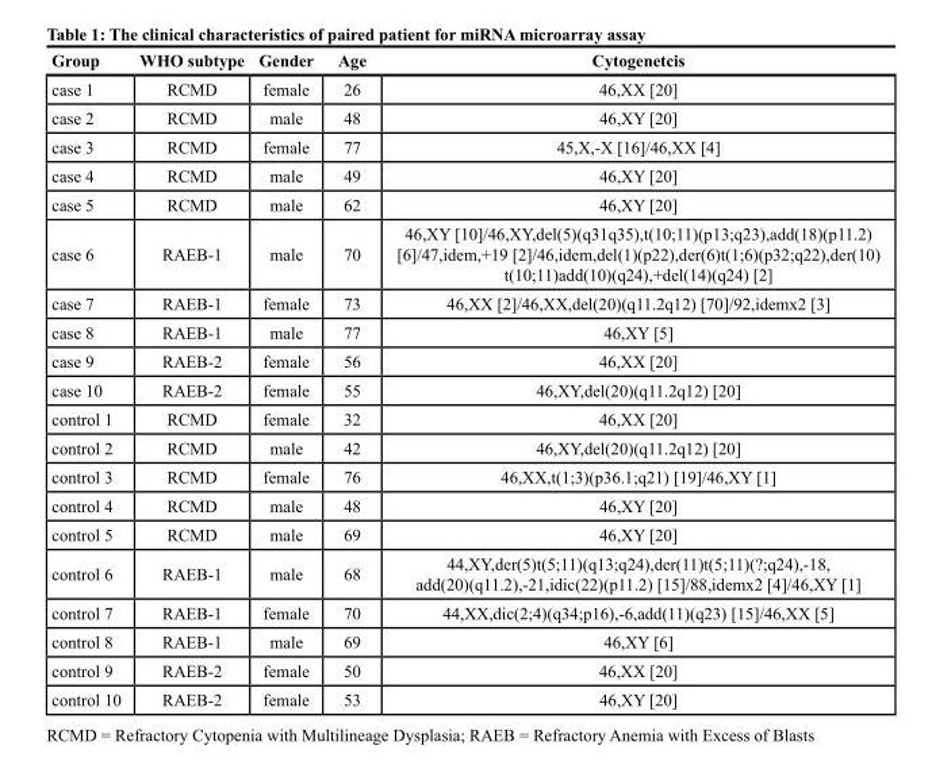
<table><thead><tr><td>Group</td><td>WHO subtype</td><td>Gender</td><td>Age</td><td>Cytogenetcis</td></tr></thead><tbody><tr><td>case 1</td><td>RCMD</td><td>female</td><td>26</td><td>46,XX [20]</td></tr><tr><td>case 2</td><td>RCMD</td><td>male</td><td>48</td><td>46,XY [20]</td></tr><tr><td>case 3</td><td>RCMD</td><td>female</td><td>77</td><td>45,X,-X [16]/46,XX [4]</td></tr><tr><td>case 4</td><td>RCMD</td><td>male</td><td>49</td><td>46,XY [20]</td></tr><tr><td>case 5</td><td>RCMD</td><td>male</td><td>62</td><td>46,XY [20]</td></tr><tr><td>case 6</td><td>RAEB-1</td><td>male</td><td>70</td><td>46,XY [10]/46,XY,del(5)(q31q35),t(10;11)(p13;q23),add(18)(p11.2) [6]/47,idem,+19 [2]/46,idem,del(1)(p22),der(6)t(1;6)(p32;q22),der(10) t(10;11)add(10)(q24),+del(14)(q24) [2]</td></tr><tr><td>case 7</td><td>RAEB-1</td><td>female</td><td>73</td><td>46,XX [2]/46,XX,del(20)(q11.2q12) [70]/92,idemx2 [3]</td></tr><tr><td>case 8</td><td>RAEB-1</td><td>male</td><td>77</td><td>46,XY [5]</td></tr><tr><td>case 9</td><td>RAEB-2</td><td>female</td><td>56</td><td>46,XX [20]</td></tr><tr><td>case 10</td><td>RAEB-2</td><td>female</td><td>55</td><td>46,XY,del(20)(q11.2q12) [20]</td></tr><tr><td>control 1</td><td>RCMD</td><td>female</td><td>32</td><td>46,XX [20]</td></tr><tr><td>control 2</td><td>RCMD</td><td>male</td><td>42</td><td>46,XY,del(20)(q11.2q12) [20]</td></tr><tr><td>control 3</td><td>RCMD</td><td>female</td><td>76</td><td>46,XX,t(1;3)(p36.1;q21) [19]/46,XY [1]</td></tr><tr><td>control 4</td><td>RCMD</td><td>male</td><td>48</td><td>46,XY [20]</td></tr><tr><td>control 5</td><td>RCMD</td><td>male</td><td>69</td><td>46,XY [20]</td></tr><tr><td>control 6</td><td>RAEB-1</td><td>male</td><td>68</td><td>44,XY,der(5)t(5;11)(q13;q24),der(11)t(5;11)(?;q24),-18, add(20)(q11.2),-21,idic(22)(p11.2) [15]/88,idemx2 [4]/46,XY [1]</td></tr><tr><td>control 7</td><td>RAEB-1</td><td>female</td><td>70</td><td>44,XX,dic(2;4)(q34;p16),-6,add(11)(q23) [15]/46,XX [5]</td></tr><tr><td>control 8</td><td>RAEB-1</td><td>male</td><td>69</td><td>46,XY [6]</td></tr><tr><td>control 9</td><td>RAEB-2</td><td>female</td><td>50</td><td>46,XX [20]</td></tr><tr><td>control 10</td><td>RAEB-2</td><td>female</td><td>53</td><td>46,XY [20]</td></tr></tbody></table>